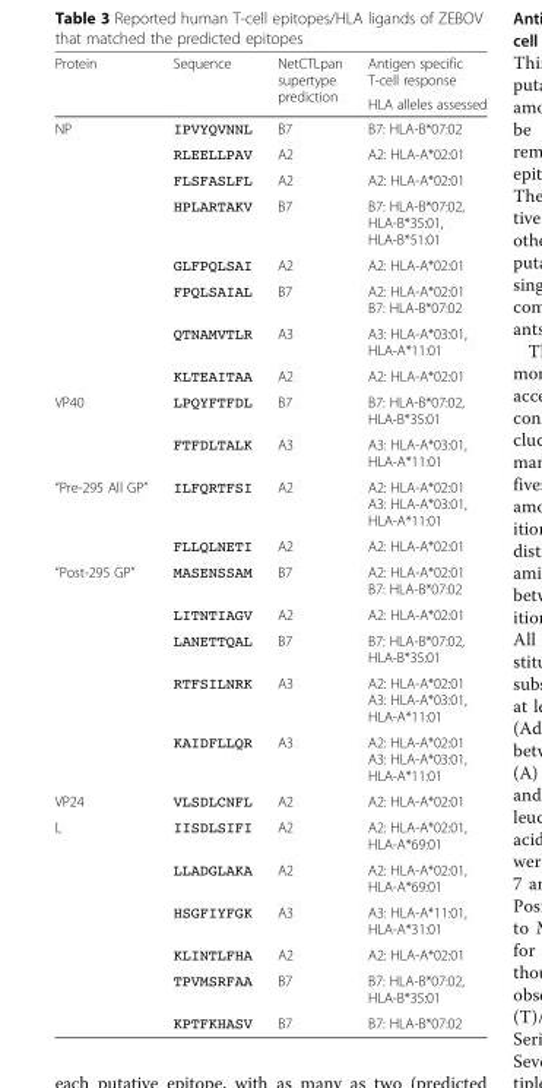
<table><thead><tr><td rowspan="2">Protein</td><td rowspan="2">Sequence</td><td rowspan="2">NetCTLpan supertype prediction</td><td rowspan="2">Antigen specific T-cell response HLA alleles assessed</td></tr><tr></tr></thead><tbody><tr><td rowspan="8">NP</td><td>IPVYQVNNL</td><td>B7</td><td>B7: HLA-B*07:02</td></tr><tr><td>RLEELLPAV</td><td>A2</td><td>A2: HLA-A*02:01</td></tr><tr><td>FLSFASLFL</td><td>A2</td><td>A2: HLA-A*02:01</td></tr><tr><td>HPLARTAKV</td><td>B7</td><td>B7: HLA-B*07:02, HLA-B*35:01, HLA-B*51:01</td></tr><tr><td>GLFPQLSAI</td><td>A2</td><td>A2: HLA-A*02:01</td></tr><tr><td>FPQLSAIAL</td><td>B7</td><td>A2: HLA-A*02:01 B7: HLA-B*07:02</td></tr><tr><td>QTNAMVTLR</td><td>A3</td><td>A3: HLA-A*03:01, HLA-A*11:01</td></tr><tr><td>KLTEAITAA</td><td>A2</td><td>A2: HLA-A*02:01</td></tr><tr><td rowspan="2">VP40</td><td>LPQYFTFDL</td><td>B7</td><td>B7: HLA-B*07:02, HLA-B*35:01</td></tr><tr><td>FTFDLTALK</td><td>A3</td><td>A3: HLA-A*03:01, HLA-A*11:01</td></tr><tr><td rowspan="2">“Pre-295 All GP”</td><td>ILFQRTFSI</td><td>A2</td><td>A2: HLA-A*02:01 A3: HLA-A*03:01, HLA-A*11:01</td></tr><tr><td>FLLQLNETI</td><td>A2</td><td>A2: HLA-A*02:01</td></tr><tr><td rowspan="5">“Post-295 GP”</td><td>MASENSSAM</td><td>B7</td><td>A2: HLA-A*02:01 B7: HLA-B*07:02</td></tr><tr><td>LITNTIAGV</td><td>A2</td><td>A2: HLA-A*02:01</td></tr><tr><td>LANETTQAL</td><td>B7</td><td>B7: HLA-B*07:02, HLA-B*35:01</td></tr><tr><td>RTFSILNRK</td><td>A3</td><td>A2: HLA-A*02:01 A3: HLA-A*03:01, HLA-A*11:01</td></tr><tr><td>KAIDFLLQR</td><td>A3</td><td>A2: HLA-A*02:01 A3: HLA-A*03:01, HLA-A*11:01</td></tr><tr><td>VP24</td><td>VLSDLCNFL</td><td>A2</td><td>A2: HLA-A*02:01</td></tr><tr><td rowspan="6">L</td><td>IISDLSIFI</td><td>A2</td><td>A2: HLA-A*02:01, HLA-A*69:01</td></tr><tr><td>LLADGLAKA</td><td>A2</td><td>A2: HLA-A*02:01, HLA-A*69:01</td></tr><tr><td>HSGFIYFGK</td><td>A3</td><td>A3: HLA-A*11:01, HLA-A*31:01</td></tr><tr><td>KLINTLFHA</td><td>A2</td><td>A2: HLA-A*02:01</td></tr><tr><td>TPVMSRFAA</td><td>B7</td><td>B7: HLA-B*07:02, HLA-B*35:01</td></tr><tr><td>KPTFKHASV</td><td>B7</td><td>B7: HLA-B*07:02</td></tr></tbody></table>